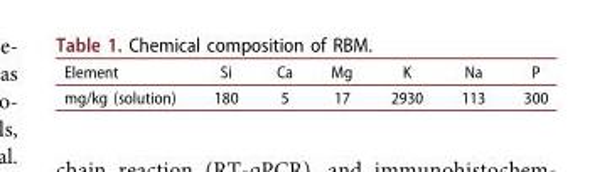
<table><thead><tr><td>Element</td><td>Si</td><td>Ca</td><td>Mg</td><td>K</td><td>Na</td><td>P</td></tr></thead><tbody><tr><td>mg/kg (solution)</td><td>180</td><td>5</td><td>17</td><td>2930</td><td>113</td><td>300</td></tr></tbody></table>